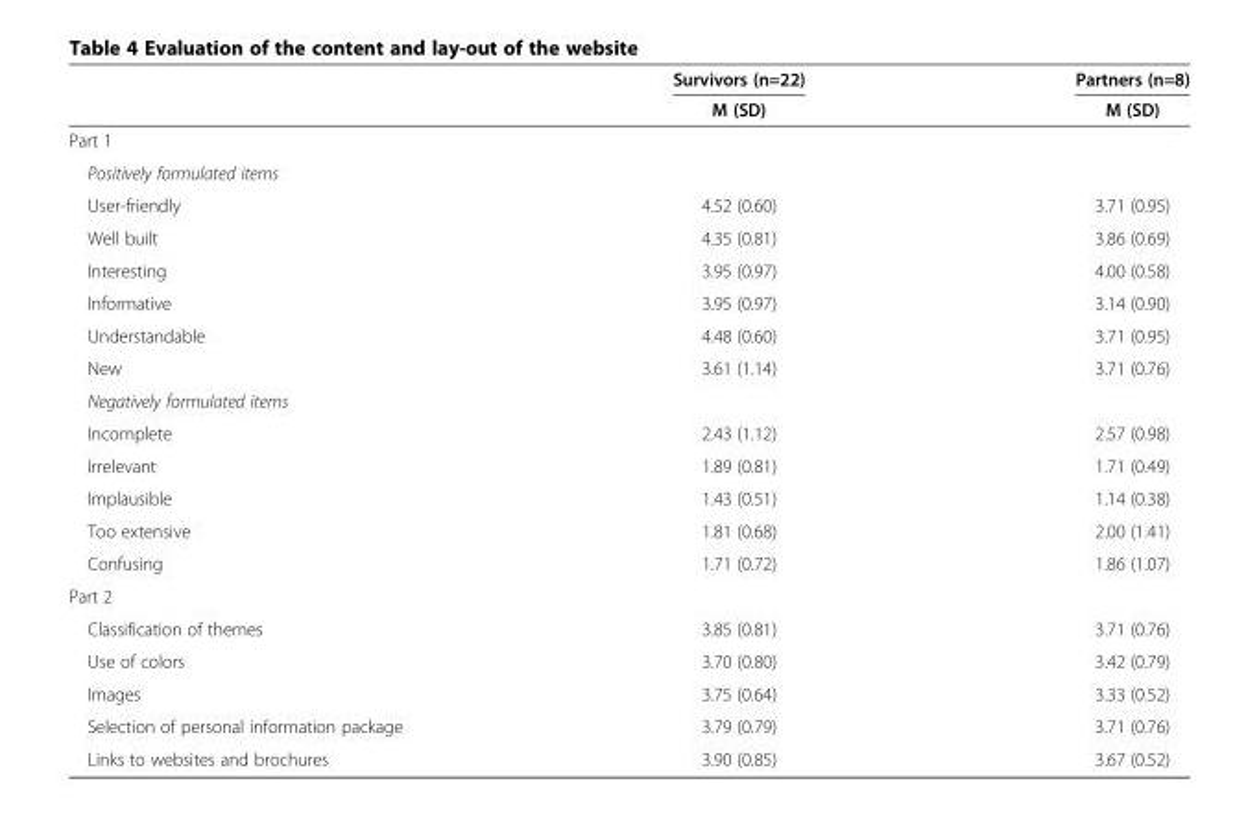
<table><thead><tr><td rowspan="2"></td><td rowspan="2">Survivors (n=22) M (SD)</td><td rowspan="2">Partners (n=8) M (SD)</td></tr><tr></tr></thead><tbody><tr><td colspan="3">Part 1</td></tr><tr><td colspan="3">Positively formulated items</td></tr><tr><td>User-friendly</td><td>4.52 (0.60)</td><td>3.71 (0.95)</td></tr><tr><td>Well built</td><td>4.35 (0.81)</td><td>3.86 (0.69)</td></tr><tr><td>Interesting</td><td>3.95 (0.97)</td><td>4.00 (0.58)</td></tr><tr><td>Informative</td><td>3.95 (0.97)</td><td>3.14 (0.90)</td></tr><tr><td>Understandable</td><td>4.48 (0.60)</td><td>3.71 (0.95)</td></tr><tr><td>New</td><td>3.61 (1.14)</td><td>3.71 (0.76)</td></tr><tr><td colspan="3">Negatively formulated items</td></tr><tr><td>Incomplete</td><td>2.43 (1.12)</td><td>2.57 (0.98)</td></tr><tr><td>Irrelevant</td><td>1.89 (0.81)</td><td>1.71 (0.49)</td></tr><tr><td>Implausible</td><td>1.43 (0.51)</td><td>1.14 (0.38)</td></tr><tr><td>Too extensive</td><td>1.81 (0.68)</td><td>2.00 (1.41)</td></tr><tr><td>Confusing</td><td>1.71 (0.72)</td><td>1.86 (1.07)</td></tr><tr><td colspan="3">Part 2</td></tr><tr><td>Classification of themes</td><td>3.85 (0.81)</td><td>3.71 (0.76)</td></tr><tr><td>Use of colors</td><td>3.70 (0.80)</td><td>3.42 (0.79)</td></tr><tr><td>Images</td><td>3.75 (0.64)</td><td>3.33 (0.52)</td></tr><tr><td>Selection of personal information package</td><td>3.79 (0.79)</td><td>3.71 (0.76)</td></tr><tr><td>Links to websites and brochures</td><td>3.90 (0.85)</td><td>3.67 (0.52)</td></tr></tbody></table>